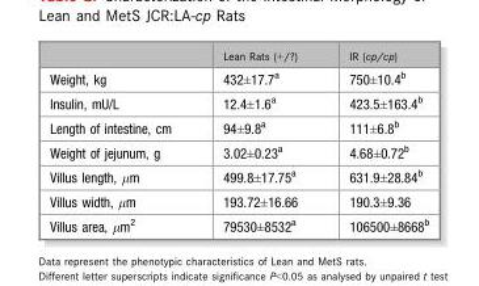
<table><thead><tr><td></td><td>Lean Rats (+/?)</td><td>IR (cp/cp)</td></tr></thead><tbody><tr><td>Weight, kg</td><td>432±17.7<sup>a</sup></td><td>750±10.4<sup>b</sup></td></tr><tr><td>Insulin, mU/L</td><td>12.4±1.6<sup>a</sup></td><td>423.5±163.4<sup>b</sup></td></tr><tr><td>Length of intestine, cm</td><td>94±9.8<sup>a</sup></td><td>111±6.8<sup>b</sup></td></tr><tr><td>Weight of jejunum, g</td><td>3.02±0.23<sup>a</sup></td><td>4.68±0.72<sup>b</sup></td></tr><tr><td>Villus length, μm</td><td>499.8±17.75<sup>a</sup></td><td>631.9±28.84<sup>b</sup></td></tr><tr><td>Villus width, μm</td><td>193.72±16.66</td><td>190.3±9.36</td></tr><tr><td>Villus area, μm<sup>2</sup></td><td>79530±8532<sup>a</sup></td><td>106500±8668<sup>b</sup></td></tr></tbody></table>